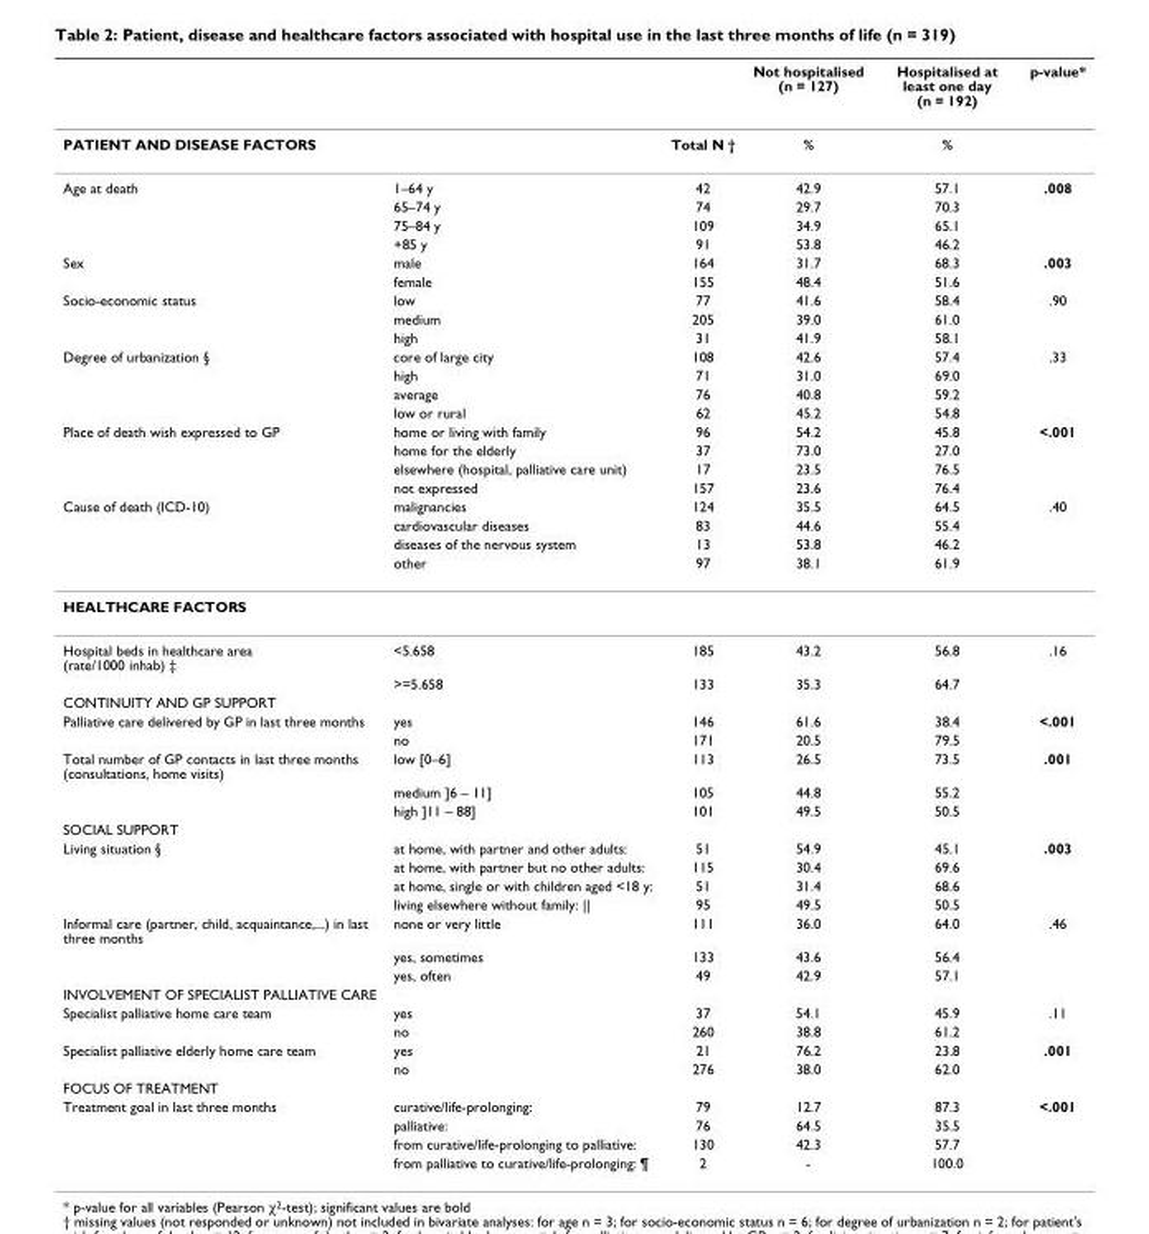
<table><thead><tr><td></td><td></td><td></td><td>Not hospitalised (n = 127)</td><td>Hospitalised at least one day (n = 192)</td><td>p-value*</td></tr></thead><tbody><tr><td colspan="2">PATIENT AND DISEASE FACTORS</td><td>Total N †</td><td>%</td><td>%</td><td></td></tr><tr><td rowspan="4">Age at death</td><td>1–64 y</td><td>42</td><td>42.9</td><td>57.1</td><td>.008</td></tr><tr><td>65–74 y</td><td>74</td><td>29.7</td><td>70.3</td><td></td></tr><tr><td>75–84 y</td><td>109</td><td>34.9</td><td>65.1</td><td></td></tr><tr><td>+85 y</td><td>91</td><td>53.8</td><td>46.2</td><td></td></tr><tr><td rowspan="2">Sex</td><td>male</td><td>164</td><td>31.7</td><td>68.3</td><td>.003</td></tr><tr><td>female</td><td>155</td><td>48.4</td><td>51.6</td><td></td></tr><tr><td rowspan="3">Socio-economic status</td><td>low</td><td>77</td><td>41.6</td><td>58.4</td><td>.90</td></tr><tr><td>medium</td><td>205</td><td>39.0</td><td>61.0</td><td></td></tr><tr><td>high</td><td>31</td><td>41.9</td><td>58.1</td><td></td></tr><tr><td rowspan="4">Degree of urbanization §</td><td>core of large city</td><td>108</td><td>42.6</td><td>57.4</td><td>.33</td></tr><tr><td>high</td><td>71</td><td>31.0</td><td>69.0</td><td></td></tr><tr><td>average</td><td>76</td><td>40.8</td><td>59.2</td><td></td></tr><tr><td>low or rural</td><td>62</td><td>45.2</td><td>54.8</td><td></td></tr><tr><td rowspan="4">Place of death wish expressed to GP</td><td>home or living with family</td><td>96</td><td>54.2</td><td>45.8</td><td>&lt;.001</td></tr><tr><td>home for the elderly</td><td>37</td><td>73.0</td><td>27.0</td><td></td></tr><tr><td>elsewhere (hospital, palliative care unit)</td><td>17</td><td>23.5</td><td>76.5</td><td></td></tr><tr><td>not expressed</td><td>157</td><td>23.6</td><td>76.4</td><td></td></tr><tr><td rowspan="4">Cause of death (ICD-10)</td><td>malignancies</td><td>124</td><td>35.5</td><td>64.5</td><td>.40</td></tr><tr><td>cardiovascular diseases</td><td>83</td><td>44.6</td><td>55.4</td><td></td></tr><tr><td>diseases of the nervous system</td><td>13</td><td>53.8</td><td>46.2</td><td></td></tr><tr><td>other</td><td>97</td><td>38.1</td><td>61.9</td><td></td></tr><tr><td colspan="6">HEALTHCARE FACTORS</td></tr><tr><td rowspan="2">Hospital beds in healthcare area (rate/1000 inhab) ‡</td><td>&lt;5.658</td><td>185</td><td>43.2</td><td>56.8</td><td>.16</td></tr><tr><td>&gt;=5.658</td><td>133</td><td>35.3</td><td>64.7</td><td></td></tr><tr><td colspan="6">CONTINUITY AND GP SUPPORT</td></tr><tr><td rowspan="2">Palliative care delivered by GP in last three months</td><td>yes</td><td>146</td><td>61.6</td><td>38.4</td><td>&lt;.001</td></tr><tr><td>no</td><td>171</td><td>20.5</td><td>79.5</td><td></td></tr><tr><td rowspan="3">Total number of GP contacts in last three months (consultations, home visits)</td><td>low [0–6]</td><td>113</td><td>26.5</td><td>73.5</td><td>.001</td></tr><tr><td>medium ]6 – 11]</td><td>105</td><td>44.8</td><td>55.2</td><td></td></tr><tr><td>high ]11 – 88]</td><td>101</td><td>49.5</td><td>50.5</td><td></td></tr><tr><td colspan="6">SOCIAL SUPPORT</td></tr><tr><td rowspan="4">Living situation §</td><td>at home, with partner and other adults:</td><td>51</td><td>54.9</td><td>45.1</td><td>.003</td></tr><tr><td>at home, with partner but no other adults:</td><td>115</td><td>30.4</td><td>69.6</td><td></td></tr><tr><td>at home, single or with children aged &lt;18 y:</td><td>51</td><td>31.4</td><td>68.6</td><td></td></tr><tr><td>living elsewhere without family: ||</td><td>95</td><td>49.5</td><td>50.5</td><td></td></tr><tr><td rowspan="3">Informal care (partner, child, acquaintance,...) in last three months</td><td>none or very little</td><td>111</td><td>36.0</td><td>64.0</td><td>.46</td></tr><tr><td>yes, sometimes</td><td>133</td><td>43.6</td><td>56.4</td><td></td></tr><tr><td>yes, often</td><td>49</td><td>42.9</td><td>57.1</td><td></td></tr><tr><td colspan="6">INVOLVEMENT OF SPECIALIST PALLIATIVE CARE</td></tr><tr><td rowspan="2">Specialist palliative home care team</td><td>yes</td><td>37</td><td>54.1</td><td>45.9</td><td>.11</td></tr><tr><td>no</td><td>260</td><td>38.8</td><td>61.2</td><td></td></tr><tr><td rowspan="2">Specialist palliative elderly home care team</td><td>yes</td><td>21</td><td>76.2</td><td>23.8</td><td>.001</td></tr><tr><td>no</td><td>276</td><td>38.0</td><td>62.0</td><td></td></tr><tr><td colspan="6">FOCUS OF TREATMENT</td></tr><tr><td rowspan="4">Treatment goal in last three months</td><td>curative/life-prolonging:</td><td>79</td><td>12.7</td><td>87.3</td><td>&lt;.001</td></tr><tr><td>palliative:</td><td>76</td><td>64.5</td><td>35.5</td><td></td></tr><tr><td>from curative/life-prolonging to palliative:</td><td>130</td><td>42.3</td><td>57.7</td><td></td></tr><tr><td>from palliative to curative/life-prolonging: ¶</td><td>2</td><td>-</td><td>100.0</td><td></td></tr></tbody></table>